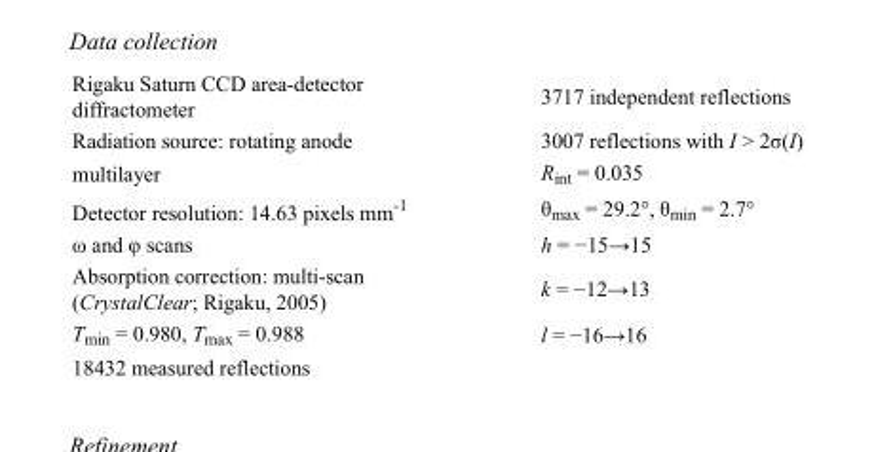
<table><tbody><tr><td>Rigaku Saturn CCD area-detector diffractometer</td><td>3717 independent reflections</td></tr><tr><td>Radiation source: rotating anode</td><td>3007 reflections with I &gt; 2σ(I)</td></tr><tr><td>multilayer</td><td>R<sub>int</sub> = 0.035</td></tr><tr><td>Detector resolution: 14.63 pixels mm<sup>-1</sup></td><td>θ<sub>max</sub> = 29.2°, θ<sub>min</sub> = 2.7°</td></tr><tr><td>ω and φ scans</td><td>h = −15→15</td></tr><tr><td>Absorption correction: multi-scan (CrystalClear; Rigaku, 2005)</td><td>k = −12→13</td></tr><tr><td>T<sub>min</sub> = 0.980, T<sub>max</sub> = 0.988</td><td>l = −16→16</td></tr><tr><td>18432 measured reflections</td><td></td></tr></tbody></table>